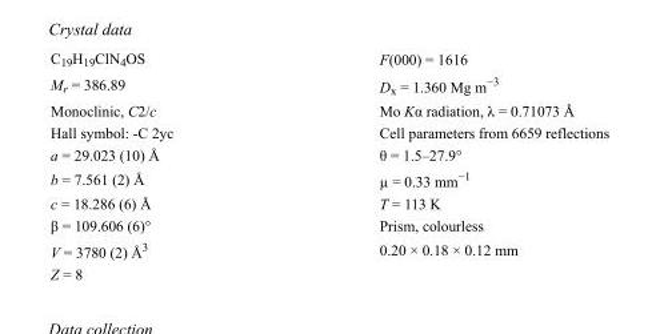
<table><tbody><tr><td>C<sub>19</sub>H<sub>19</sub>ClN<sub>4</sub>OS</td><td>F(000) = 1616</td></tr><tr><td>M<sub>r</sub> = 386.89</td><td>D<sub>x</sub> = 1.360 Mg m<sup>−3</sup></td></tr><tr><td>Monoclinic, C2/c</td><td>Mo Kα radiation, λ = 0.71073 Å</td></tr><tr><td>Hall symbol: -C 2yc</td><td>Cell parameters from 6659 reflections</td></tr><tr><td>a = 29.023 (10) Å</td><td>θ = 1.5–27.9°</td></tr><tr><td>b = 7.561 (2) Å</td><td>µ = 0.33 mm<sup>−1</sup></td></tr><tr><td>c = 18.286 (6) Å</td><td>T = 113 K</td></tr><tr><td>β = 109.606 (6)°</td><td>Prism, colourless</td></tr><tr><td>V = 3780 (2) Å<sup>3</sup></td><td>0.20 × 0.18 × 0.12 mm</td></tr><tr><td>Z = 8</td><td></td></tr></tbody></table>